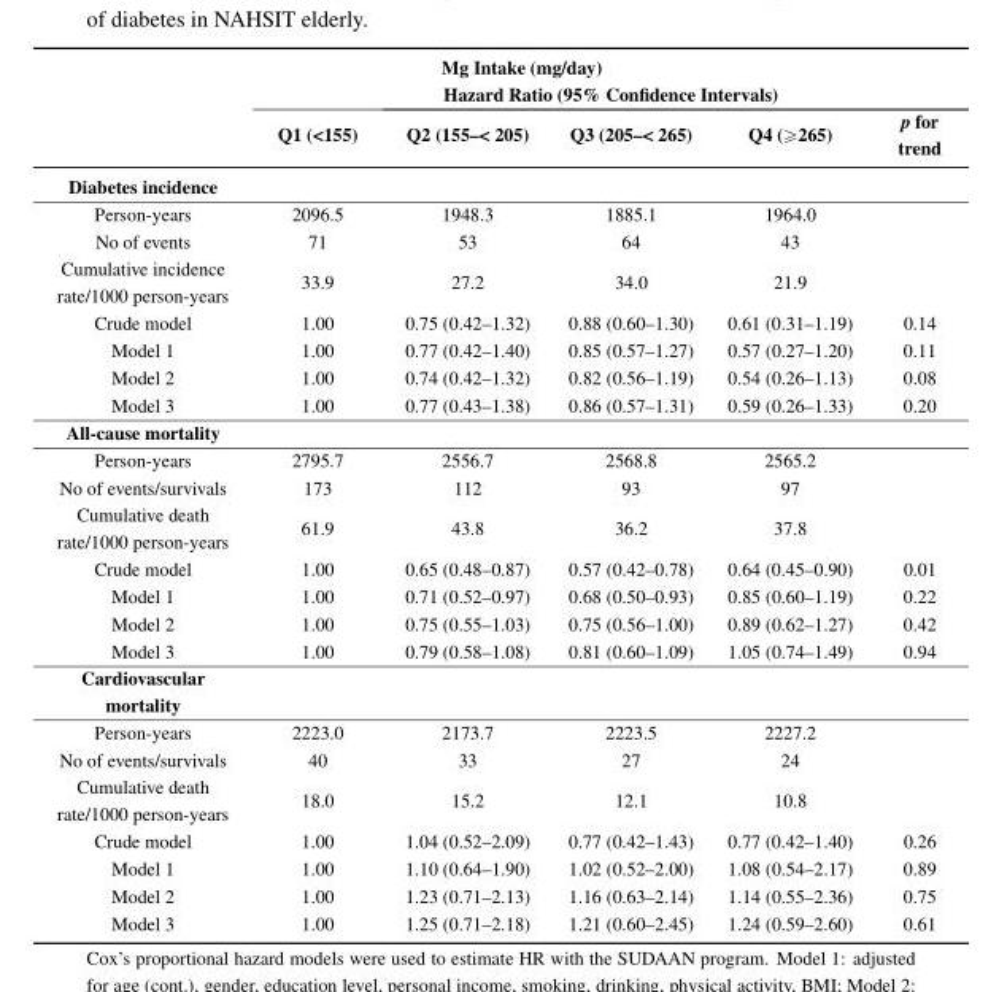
<table><thead><tr><td rowspan="2"></td><td colspan="5">Mg Intake (mg/day) Hazard Ratio (95% Confidence Intervals)</td></tr><tr><td>Q1 (&lt;155)</td><td>Q2 (155–&lt; 205)</td><td>Q3 (205–&lt; 265)</td><td>Q4 (ě265)</td><td>p for trend</td></tr></thead><tbody><tr><td colspan="6">Diabetes incidence</td></tr><tr><td>Person-years</td><td>2096.5</td><td>1948.3</td><td>1885.1</td><td>1964.0</td><td></td></tr><tr><td>No of events</td><td>71</td><td>53</td><td>64</td><td>43</td><td></td></tr><tr><td>Cumulative incidence rate/1000 person-years</td><td>33.9</td><td>27.2</td><td>34.0</td><td>21.9</td><td></td></tr><tr><td>Crude model</td><td>1.00</td><td>0.75 (0.42–1.32)</td><td>0.88 (0.60–1.30)</td><td>0.61 (0.31–1.19)</td><td>0.14</td></tr><tr><td>Model 1</td><td>1.00</td><td>0.77 (0.42–1.40)</td><td>0.85 (0.57–1.27)</td><td>0.57 (0.27–1.20)</td><td>0.11</td></tr><tr><td>Model 2</td><td>1.00</td><td>0.74 (0.42–1.32)</td><td>0.82 (0.56–1.19)</td><td>0.54 (0.26–1.13)</td><td>0.08</td></tr><tr><td>Model 3</td><td>1.00</td><td>0.77 (0.43–1.38)</td><td>0.86 (0.57–1.31)</td><td>0.59 (0.26–1.33)</td><td>0.20</td></tr><tr><td colspan="6">All-cause mortality</td></tr><tr><td>Person-years</td><td>2795.7</td><td>2556.7</td><td>2568.8</td><td>2565.2</td><td></td></tr><tr><td>No of events/survivals</td><td>173</td><td>112</td><td>93</td><td>97</td><td></td></tr><tr><td>Cumulative death rate/1000 person-years</td><td>61.9</td><td>43.8</td><td>36.2</td><td>37.8</td><td></td></tr><tr><td>Crude model</td><td>1.00</td><td>0.65 (0.48–0.87)</td><td>0.57 (0.42–0.78)</td><td>0.64 (0.45–0.90)</td><td>0.01</td></tr><tr><td>Model 1</td><td>1.00</td><td>0.71 (0.52–0.97)</td><td>0.68 (0.50–0.93)</td><td>0.85 (0.60–1.19)</td><td>0.22</td></tr><tr><td>Model 2</td><td>1.00</td><td>0.75 (0.55–1.03)</td><td>0.75 (0.56–1.00)</td><td>0.89 (0.62–1.27)</td><td>0.42</td></tr><tr><td>Model 3</td><td>1.00</td><td>0.79 (0.58–1.08)</td><td>0.81 (0.60–1.09)</td><td>1.05 (0.74–1.49)</td><td>0.94</td></tr><tr><td colspan="6">Cardiovascular mortality</td></tr><tr><td>Person-years</td><td>2223.0</td><td>2173.7</td><td>2223.5</td><td>2227.2</td><td></td></tr><tr><td>No of events/survivals</td><td>40</td><td>33</td><td>27</td><td>24</td><td></td></tr><tr><td>Cumulative death rate/1000 person-years</td><td>18.0</td><td>15.2</td><td>12.1</td><td>10.8</td><td></td></tr><tr><td>Crude model</td><td>1.00</td><td>1.04 (0.52–2.09)</td><td>0.77 (0.42–1.43)</td><td>0.77 (0.42–1.40)</td><td>0.26</td></tr><tr><td>Model 1</td><td>1.00</td><td>1.10 (0.64–1.90)</td><td>1.02 (0.52–2.00)</td><td>1.08 (0.54–2.17)</td><td>0.89</td></tr><tr><td>Model 2</td><td>1.00</td><td>1.23 (0.71–2.13)</td><td>1.16 (0.63–2.14)</td><td>1.14 (0.55–2.36)</td><td>0.75</td></tr><tr><td>Model 3</td><td>1.00</td><td>1.25 (0.71–2.18)</td><td>1.21 (0.60–2.45)</td><td>1.24 (0.59–2.60)</td><td>0.61</td></tr></tbody></table>